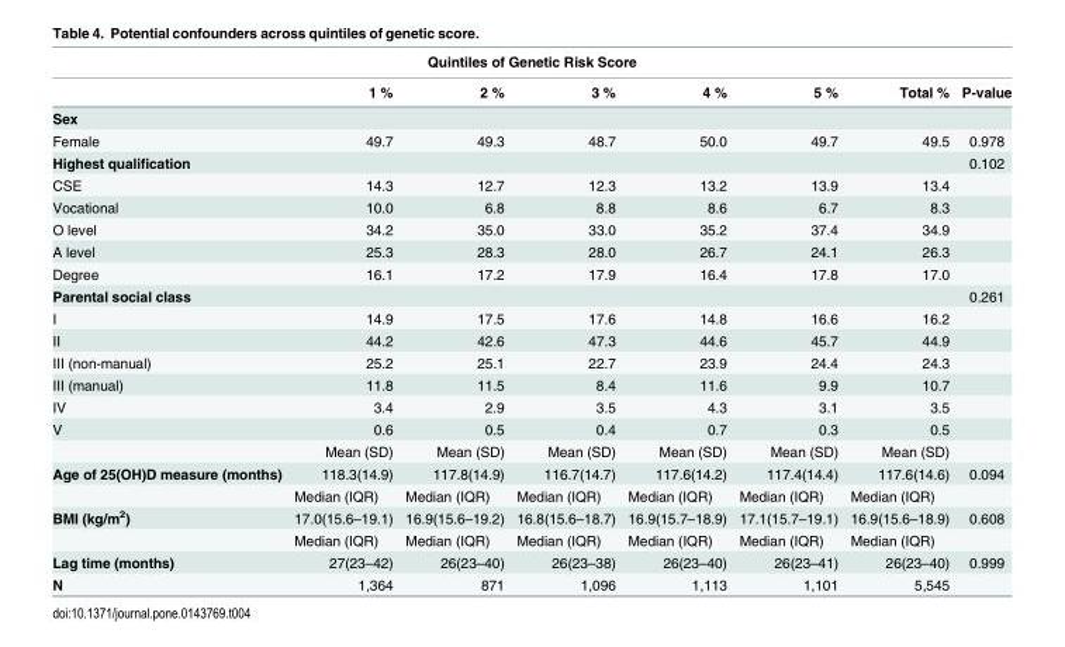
<table><thead><tr><td colspan="8">Quintiles of Genetic Risk Score</td></tr><tr><td></td><td>1 %</td><td>2 %</td><td>3 %</td><td>4 %</td><td>5 %</td><td>Total %</td><td>P-value</td></tr></thead><tbody><tr><td colspan="8">Sex</td></tr><tr><td>Female</td><td>49.7</td><td>49.3</td><td>48.7</td><td>50.0</td><td>49.7</td><td>49.5</td><td>0.978</td></tr><tr><td>Highest qualification</td><td></td><td></td><td></td><td></td><td></td><td></td><td>0.102</td></tr><tr><td>CSE</td><td>14.3</td><td>12.7</td><td>12.3</td><td>13.2</td><td>13.9</td><td>13.4</td><td></td></tr><tr><td>Vocational</td><td>10.0</td><td>6.8</td><td>8.8</td><td>8.6</td><td>6.7</td><td>8.3</td><td></td></tr><tr><td>O level</td><td>34.2</td><td>35.0</td><td>33.0</td><td>35.2</td><td>37.4</td><td>34.9</td><td></td></tr><tr><td>A level</td><td>25.3</td><td>28.3</td><td>28.0</td><td>26.7</td><td>24.1</td><td>26.3</td><td></td></tr><tr><td>Degree</td><td>16.1</td><td>17.2</td><td>17.9</td><td>16.4</td><td>17.8</td><td>17.0</td><td></td></tr><tr><td>Parental social class</td><td></td><td></td><td></td><td></td><td></td><td></td><td>0.261</td></tr><tr><td>I</td><td>14.9</td><td>17.5</td><td>17.6</td><td>14.8</td><td>16.6</td><td>16.2</td><td></td></tr><tr><td>II</td><td>44.2</td><td>42.6</td><td>47.3</td><td>44.6</td><td>45.7</td><td>44.9</td><td></td></tr><tr><td>III (non-manual)</td><td>25.2</td><td>25.1</td><td>22.7</td><td>23.9</td><td>24.4</td><td>24.3</td><td></td></tr><tr><td>III (manual)</td><td>11.8</td><td>11.5</td><td>8.4</td><td>11.6</td><td>9.9</td><td>10.7</td><td></td></tr><tr><td>IV</td><td>3.4</td><td>2.9</td><td>3.5</td><td>4.3</td><td>3.1</td><td>3.5</td><td></td></tr><tr><td rowspan="2">V</td><td>0.6</td><td>0.5</td><td>0.4</td><td>0.7</td><td>0.3</td><td>0.5</td><td></td></tr><tr><td>Mean (SD)</td><td>Mean (SD)</td><td>Mean (SD)</td><td>Mean (SD)</td><td>Mean (SD)</td><td>Mean (SD)</td><td></td></tr><tr><td rowspan="2">Age of 25(OH)D measure (months)</td><td>118.3(14.9)</td><td>117.8(14.9)</td><td>116.7(14.7)</td><td>117.6(14.2)</td><td>117.4(14.4)</td><td>117.6(14.6)</td><td>0.094</td></tr><tr><td>Median (IQR)</td><td>Median (IQR)</td><td>Median (IQR)</td><td>Median (IQR)</td><td>Median (IQR)</td><td>Median (IQR)</td><td></td></tr><tr><td rowspan="2">BMI (kg/m<sup>2</sup>)</td><td>17.0(15.6–19.1)</td><td>16.9(15.6–19.2)</td><td>16.8(15.6–18.7)</td><td>16.9(15.7–18.9)</td><td>17.1(15.7–19.1)</td><td>16.9(15.6–18.9)</td><td>0.608</td></tr><tr><td>Median (IQR)</td><td>Median (IQR)</td><td>Median (IQR)</td><td>Median (IQR)</td><td>Median (IQR)</td><td>Median (IQR)</td><td></td></tr><tr><td>Lag time (months)</td><td>27(23–42)</td><td>26(23–40)</td><td>26(23–38)</td><td>26(23–40)</td><td>26(23–41)</td><td>26(23–40)</td><td>0.999</td></tr><tr><td>N</td><td>1,364</td><td>871</td><td>1,096</td><td>1,113</td><td>1,101</td><td>5,545</td><td></td></tr></tbody></table>